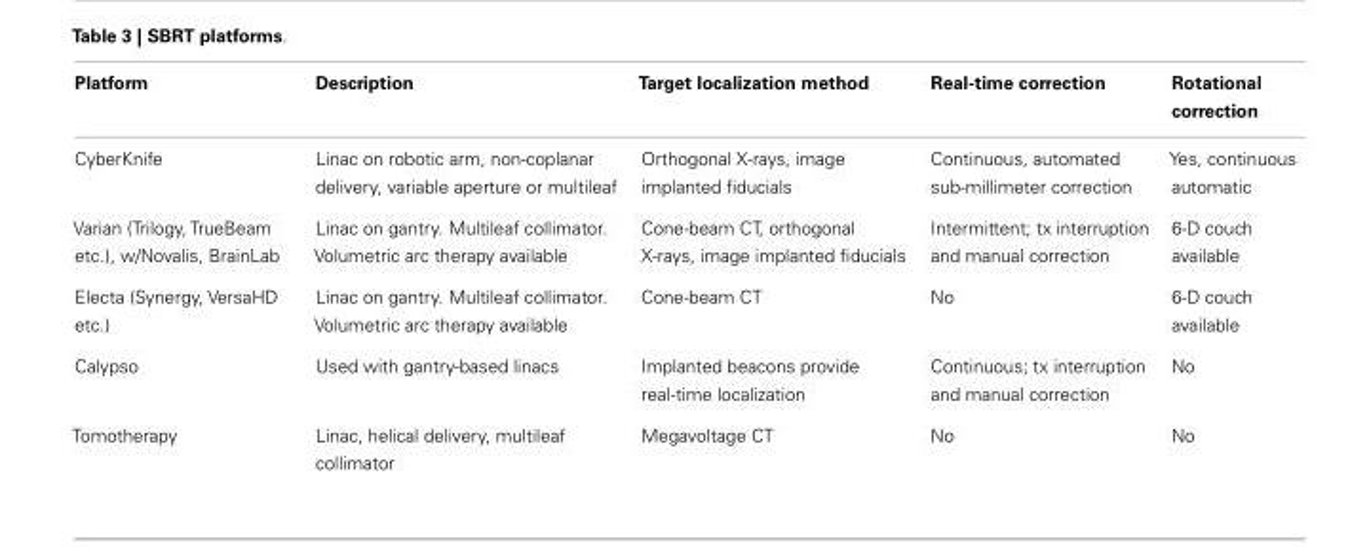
<table><thead><tr><td>Platform</td><td>Description</td><td>Target localization method</td><td>Real-time correction</td><td>Rotational correction</td></tr></thead><tbody><tr><td>CyberKnife</td><td>Linac on robotic arm, non-coplanar delivery, variable aperture or multileaf</td><td>Orthogonal X-rays, image implanted fiducials</td><td>Continuous, automated sub-millimeter correction</td><td>Yes, continuous automatic</td></tr><tr><td>Varian (Trilogy, TrueBeam etc.), w/Novalis, BrainLab</td><td>Linac on gantry. Multileaf collimator. Volumetric arc therapy available</td><td>Cone-beam CT, orthogonal X-rays, image implanted fiducials</td><td>Intermittent; tx interruption and manual correction</td><td>6-D couch available</td></tr><tr><td>Electa (Synergy, VersaHD etc.)</td><td>Linac on gantry. Multileaf collimator. Volumetric arc therapy available</td><td>Cone-beam CT</td><td>No</td><td>6-D couch available</td></tr><tr><td>Calypso</td><td>Used with gantry-based linacs</td><td>Implanted beacons provide real-time localization</td><td>Continuous; tx interruption and manual correction</td><td>No</td></tr><tr><td>Tomotherapy</td><td>Linac, helical delivery, multileaf collimator</td><td>Megavoltage CT</td><td>No</td><td>No</td></tr></tbody></table>